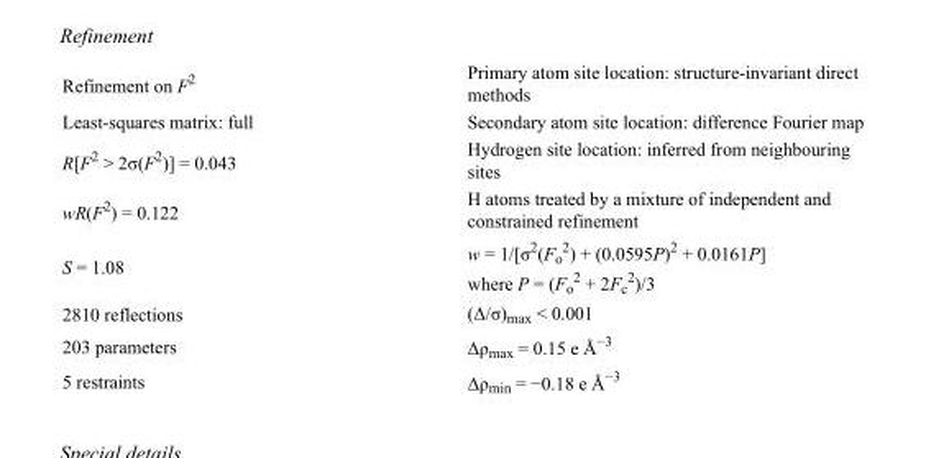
<table><tbody><tr><td>Refinement on F<sup>2</sup></td><td>Primary atom site location: structure-invariant direct methods</td></tr><tr><td>Least-squares matrix: full</td><td>Secondary atom site location: difference Fourier map</td></tr><tr><td>R[F<sup>2</sup> &gt; 2σ(F<sup>2</sup>)] = 0.043</td><td>Hydrogen site location: inferred from neighbouring sites</td></tr><tr><td>wR(F<sup>2</sup>) = 0.122</td><td>H atoms treated by a mixture of independent and constrained refinement</td></tr><tr><td>S = 1.08</td><td>w = 1/[σ<sup>2</sup>(F<sub>o</sub> <sup>2</sup>) + (0.0595P)<sup>2</sup> + 0.0161P] where P = (F<sub>o</sub> <sup>2</sup> + 2F<sub>c</sub> <sup>2</sup>)/3</td></tr><tr><td>2810 reflections</td><td>(Δ/σ)<sub>max</sub> &lt; 0.001</td></tr><tr><td>203 parameters</td><td>Δρ<sub>max</sub> = 0.15 e Å<sup>−3</sup></td></tr><tr><td>5 restraints</td><td>Δρ<sub>min</sub> = −0.18 e Å<sup>−3</sup></td></tr></tbody></table>